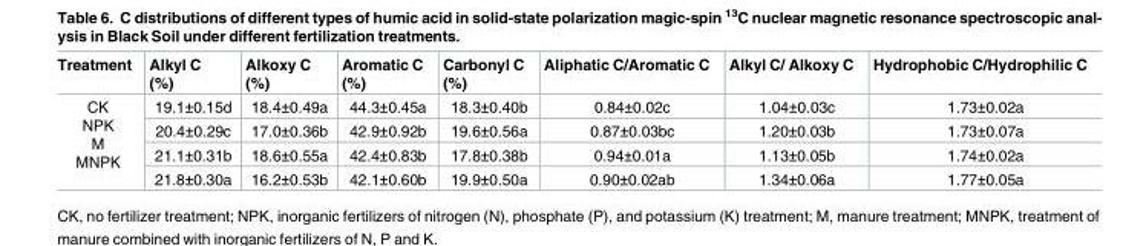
<table><thead><tr><td>Treatment</td><td>Alkyl C (%)</td><td>Alkoxy C (%)</td><td>Aromatic C (%)</td><td>Carbonyl C (%)</td><td>Aliphatic C/Aromatic C</td><td>Alkyl C/ Alkoxy C</td><td>Hydrophobic C/Hydrophilic C</td></tr></thead><tbody><tr><td rowspan="4">CK NPK M MNPK</td><td>19.1±0.15d</td><td>18.4±0.49a</td><td>44.3±0.45a</td><td>18.3±0.40b</td><td>0.84±0.02c</td><td>1.04±0.03c</td><td>1.73±0.02a</td></tr><tr><td>20.4±0.29c</td><td>17.0±0.36b</td><td>42.9±0.92b</td><td>19.6±0.56a</td><td>0.87±0.03bc</td><td>1.20±0.03b</td><td>1.73±0.07a</td></tr><tr><td>21.1±0.31b</td><td>18.6±0.55a</td><td>42.4±0.83b</td><td>17.8±0.38b</td><td>0.94±0.01a</td><td>1.13±0.05b</td><td>1.74±0.02a</td></tr><tr><td>21.8±0.30a</td><td>16.2±0.53b</td><td>42.1±0.60b</td><td>19.9±0.50a</td><td>0.90±0.02ab</td><td>1.34±0.06a</td><td>1.77±0.05a</td></tr></tbody></table>